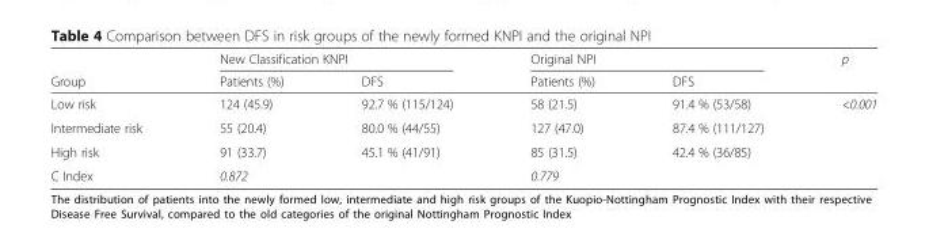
<table><thead><tr><td rowspan="2">Group</td><td colspan="2">New Classification KNPI</td><td colspan="2">Original NPI</td><td rowspan="2">p</td></tr><tr><td>Patients (%)</td><td>DFS</td><td>Patients (%)</td><td>DFS</td></tr></thead><tbody><tr><td>Low risk</td><td>124 (45.9)</td><td>92.7 % (115/124)</td><td>58 (21.5)</td><td>91.4 % (53/58)</td><td rowspan="3">&lt;0.001</td></tr><tr><td>Intermediate risk</td><td>55 (20.4)</td><td>80.0 % (44/55)</td><td>127 (47.0)</td><td>87.4 % (111/127)</td></tr><tr><td>High risk</td><td>91 (33.7)</td><td>45.1 % (41/91)</td><td>85 (31.5)</td><td>42.4 % (36/85)</td></tr><tr><td>C Index</td><td colspan="2">0.872</td><td colspan="2">0.779</td><td></td></tr></tbody></table>